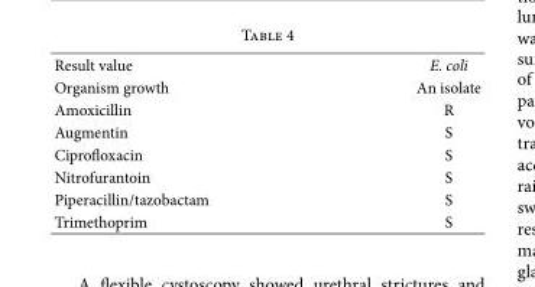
<table><tbody><tr><td>Result value</td><td>E. coli</td></tr><tr><td>Organism growth</td><td>An isolate</td></tr><tr><td>Amoxicillin</td><td>R</td></tr><tr><td>Augmentin</td><td>S</td></tr><tr><td>Ciprofloxacin</td><td>S</td></tr><tr><td>Nitrofurantoin</td><td>S</td></tr><tr><td>Piperacillin/tazobactam</td><td>S</td></tr><tr><td>Trimethoprim</td><td>S</td></tr></tbody></table>